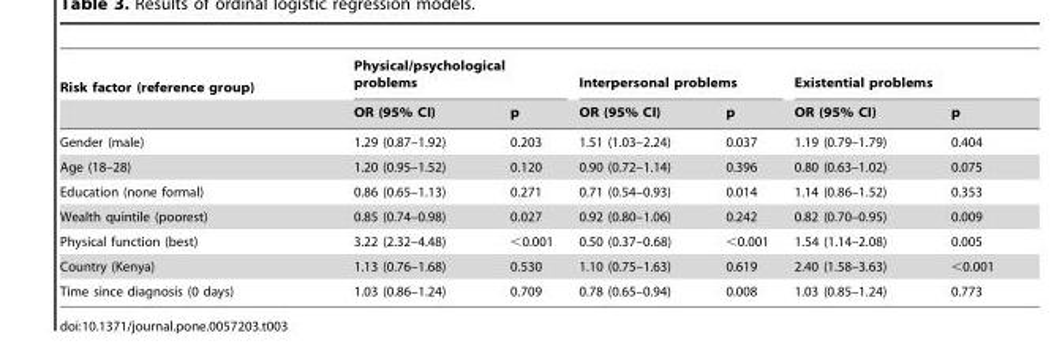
<table><thead><tr><td rowspan="2">Risk factor (reference group)</td><td colspan="2">Physical/psychological problems</td><td colspan="2">Interpersonal problems</td><td colspan="2">Existential problems</td></tr><tr><td>OR (95% CI)</td><td>p</td><td>OR (95% CI)</td><td>p</td><td>OR (95% CI)</td><td>p</td></tr></thead><tbody><tr><td>Gender (male)</td><td>1.29 (0.87–1.92)</td><td>0.203</td><td>1.51 (1.03–2.24)</td><td>0.037</td><td>1.19 (0.79–1.79)</td><td>0.404</td></tr><tr><td>Age (18–28)</td><td>1.20 (0.95–1.52)</td><td>0.120</td><td>0.90 (0.72–1.14)</td><td>0.396</td><td>0.80 (0.63–1.02)</td><td>0.075</td></tr><tr><td>Education (none formal)</td><td>0.86 (0.65–1.13)</td><td>0.271</td><td>0.71 (0.54–0.93)</td><td>0.014</td><td>1.14 (0.86–1.52)</td><td>0.353</td></tr><tr><td>Wealth quintile (poorest)</td><td>0.85 (0.74–0.98)</td><td>0.027</td><td>0.92 (0.80–1.06)</td><td>0.242</td><td>0.82 (0.70–0.95)</td><td>0.009</td></tr><tr><td>Physical function (best)</td><td>3.22 (2.32–4.48)</td><td>&lt;0.001</td><td>0.50 (0.37–0.68)</td><td>&lt;0.001</td><td>1.54 (1.14–2.08)</td><td>0.005</td></tr><tr><td>Country (Kenya)</td><td>1.13 (0.76–1.68)</td><td>0.530</td><td>1.10 (0.75–1.63)</td><td>0.619</td><td>2.40 (1.58–3.63)</td><td>&lt;0.001</td></tr><tr><td>Time since diagnosis (0 days)</td><td>1.03 (0.86–1.24)</td><td>0.709</td><td>0.78 (0.65–0.94)</td><td>0.008</td><td>1.03 (0.85–1.24)</td><td>0.773</td></tr></tbody></table>